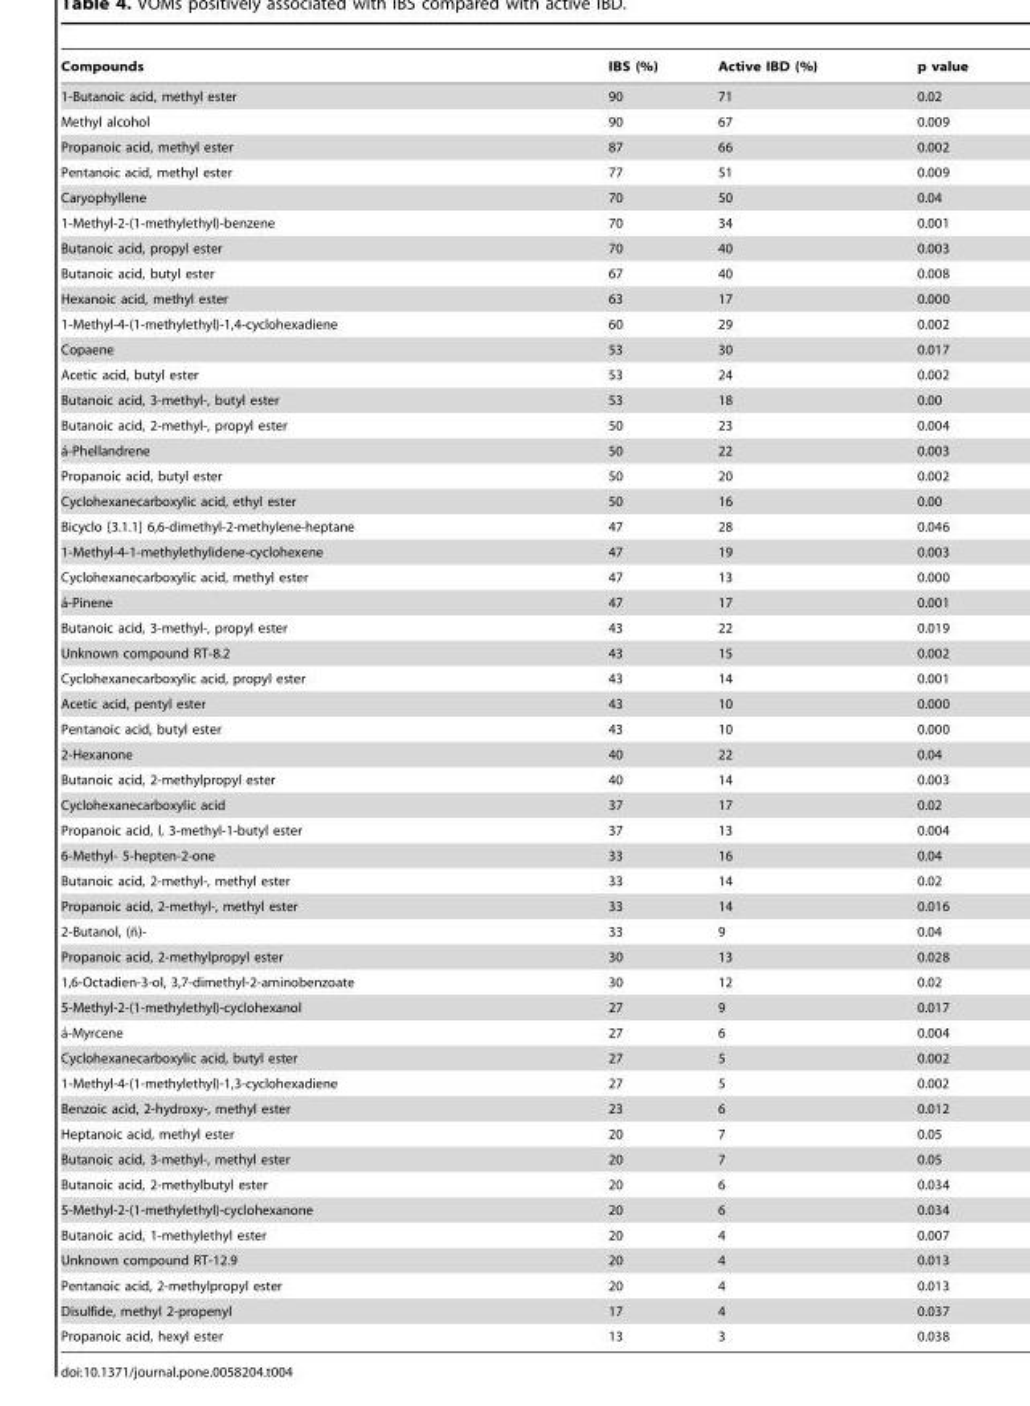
<table><thead><tr><td>Compounds</td><td>IBS (%)</td><td>Active IBD (%)</td><td>p value</td></tr></thead><tbody><tr><td>1-Butanoic acid, methyl ester</td><td>90</td><td>71</td><td>0.02</td></tr><tr><td>Methyl alcohol</td><td>90</td><td>67</td><td>0.009</td></tr><tr><td>Propanoic acid, methyl ester</td><td>87</td><td>66</td><td>0.002</td></tr><tr><td>Pentanoic acid, methyl ester</td><td>77</td><td>51</td><td>0.009</td></tr><tr><td>Caryophyllene</td><td>70</td><td>50</td><td>0.04</td></tr><tr><td>1-Methyl-2-(1-methylethyl)-benzene</td><td>70</td><td>34</td><td>0.001</td></tr><tr><td>Butanoic acid, propyl ester</td><td>70</td><td>40</td><td>0.003</td></tr><tr><td>Butanoic acid, butyl ester</td><td>67</td><td>40</td><td>0.008</td></tr><tr><td>Hexanoic acid, methyl ester</td><td>63</td><td>17</td><td>0.000</td></tr><tr><td>1-Methyl-4-(1-methylethyl)-1,4-cyclohexadiene</td><td>60</td><td>29</td><td>0.002</td></tr><tr><td>Copaene</td><td>53</td><td>30</td><td>0.017</td></tr><tr><td>Acetic acid, butyl ester</td><td>53</td><td>24</td><td>0.002</td></tr><tr><td>Butanoic acid, 3-methyl-, butyl ester</td><td>53</td><td>18</td><td>0.00</td></tr><tr><td>Butanoic acid, 2-methyl-, propyl ester</td><td>50</td><td>23</td><td>0.004</td></tr><tr><td>a´-Phellandrene</td><td>50</td><td>22</td><td>0.003</td></tr><tr><td>Propanoic acid, butyl ester</td><td>50</td><td>20</td><td>0.002</td></tr><tr><td>Cyclohexanecarboxylic acid, ethyl ester</td><td>50</td><td>16</td><td>0.00</td></tr><tr><td>Bicyclo [3.1.1] 6,6-dimethyl-2-methylene-heptane</td><td>47</td><td>28</td><td>0.046</td></tr><tr><td>1-Methyl-4-1-methylethylidene-cyclohexene</td><td>47</td><td>19</td><td>0.003</td></tr><tr><td>Cyclohexanecarboxylic acid, methyl ester</td><td>47</td><td>13</td><td>0.000</td></tr><tr><td>a´-Pinene</td><td>47</td><td>17</td><td>0.001</td></tr><tr><td>Butanoic acid, 3-methyl-, propyl ester</td><td>43</td><td>22</td><td>0.019</td></tr><tr><td>Unknown compound RT-8.2</td><td>43</td><td>15</td><td>0.002</td></tr><tr><td>Cyclohexanecarboxylic acid, propyl ester</td><td>43</td><td>14</td><td>0.001</td></tr><tr><td>Acetic acid, pentyl ester</td><td>43</td><td>10</td><td>0.000</td></tr><tr><td>Pentanoic acid, butyl ester</td><td>43</td><td>10</td><td>0.000</td></tr><tr><td>2-Hexanone</td><td>40</td><td>22</td><td>0.04</td></tr><tr><td>Butanoic acid, 2-methylpropyl ester</td><td>40</td><td>14</td><td>0.003</td></tr><tr><td>Cyclohexanecarboxylic acid</td><td>37</td><td>17</td><td>0.02</td></tr><tr><td>Propanoic acid, l, 3-methyl-1-butyl ester</td><td>37</td><td>13</td><td>0.004</td></tr><tr><td>6-Methyl- 5-hepten-2-one</td><td>33</td><td>16</td><td>0.04</td></tr><tr><td>Butanoic acid, 2-methyl-, methyl ester</td><td>33</td><td>14</td><td>0.02</td></tr><tr><td>Propanoic acid, 2-methyl-, methyl ester</td><td>33</td><td>14</td><td>0.016</td></tr><tr><td>2-Butanol, (n˜)-</td><td>33</td><td>9</td><td>0.04</td></tr><tr><td>Propanoic acid, 2-methylpropyl ester</td><td>30</td><td>13</td><td>0.028</td></tr><tr><td>1,6-Octadien-3-ol, 3,7-dimethyl-2-aminobenzoate</td><td>30</td><td>12</td><td>0.02</td></tr><tr><td>5-Methyl-2-(1-methylethyl)-cyclohexanol</td><td>27</td><td>9</td><td>0.017</td></tr><tr><td>a´-Myrcene</td><td>27</td><td>6</td><td>0.004</td></tr><tr><td>Cyclohexanecarboxylic acid, butyl ester</td><td>27</td><td>5</td><td>0.002</td></tr><tr><td>1-Methyl-4-(1-methylethyl)-1,3-cyclohexadiene</td><td>27</td><td>5</td><td>0.002</td></tr><tr><td>Benzoic acid, 2-hydroxy-, methyl ester</td><td>23</td><td>6</td><td>0.012</td></tr><tr><td>Heptanoic acid, methyl ester</td><td>20</td><td>7</td><td>0.05</td></tr><tr><td>Butanoic acid, 3-methyl-, methyl ester</td><td>20</td><td>7</td><td>0.05</td></tr><tr><td>Butanoic acid, 2-methylbutyl ester</td><td>20</td><td>6</td><td>0.034</td></tr><tr><td>5-Methyl-2-(1-methylethyl)-cyclohexanone</td><td>20</td><td>6</td><td>0.034</td></tr><tr><td>Butanoic acid, 1-methylethyl ester</td><td>20</td><td>4</td><td>0.007</td></tr><tr><td>Unknown compound RT-12.9</td><td>20</td><td>4</td><td>0.013</td></tr><tr><td>Pentanoic acid, 2-methylpropyl ester</td><td>20</td><td>4</td><td>0.013</td></tr><tr><td>Disulfide, methyl 2-propenyl</td><td>17</td><td>4</td><td>0.037</td></tr><tr><td>Propanoic acid, hexyl ester</td><td>13</td><td>3</td><td>0.038</td></tr></tbody></table>